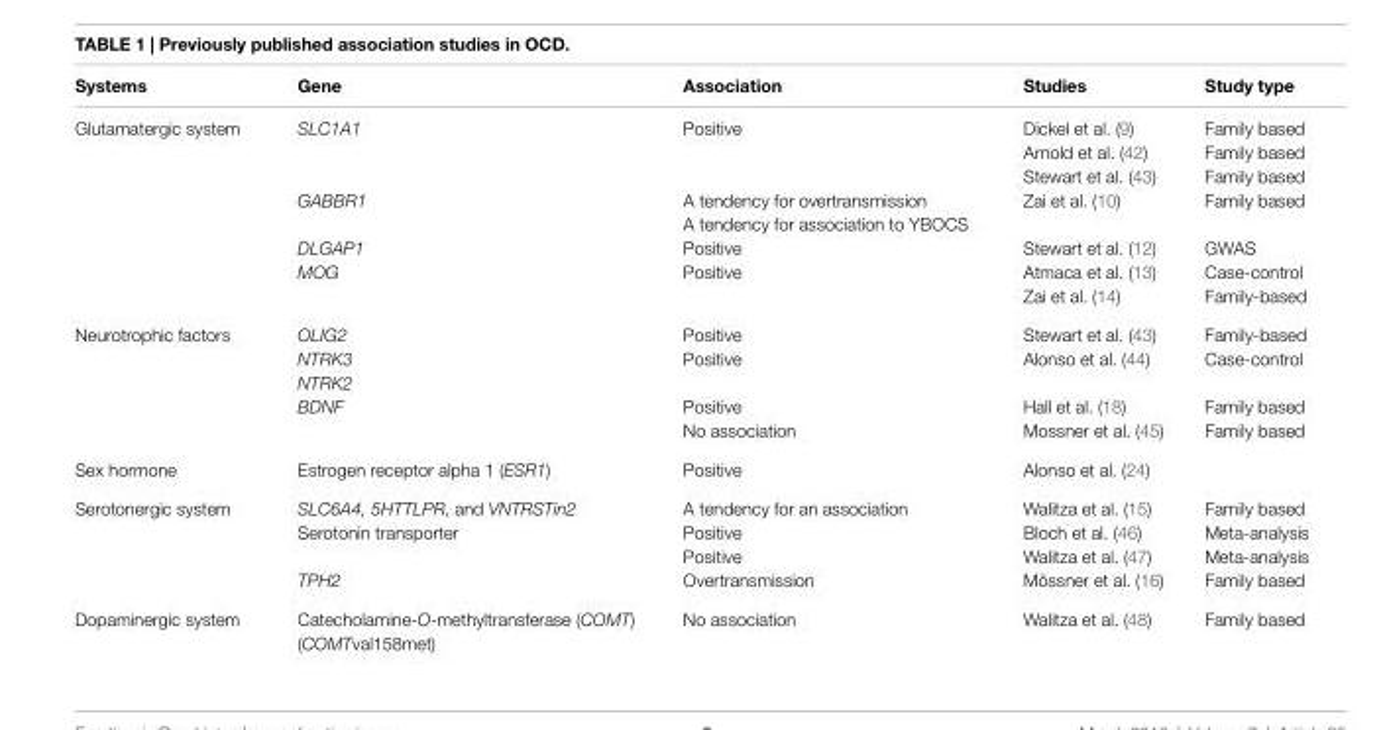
<table><thead><tr><td>systems</td><td>gene</td><td>association</td><td>studies</td><td>study type</td></tr></thead><tbody><tr><td rowspan="8">Glutamatergic system</td><td rowspan="3">SLC1A1</td><td rowspan="3">Positive</td><td>Dickel et al. (9)</td><td>Family based</td></tr><tr><td>Arnold et al. (42)</td><td>Family based</td></tr><tr><td>Stewart et al. (43)</td><td>Family based</td></tr><tr><td rowspan="2">GABBR1</td><td>A tendency for overtransmission</td><td rowspan="2">Zai et al. (10)</td><td rowspan="2">Family based</td></tr><tr><td>A tendency for association to YBOCS</td></tr><tr><td>DLGAP1</td><td>Positive</td><td>Stewart et al. (12)</td><td>GWAS</td></tr><tr><td rowspan="2">MOG</td><td rowspan="2">Positive</td><td>Atmaca et al. (13)</td><td>Case-control</td></tr><tr><td>Zai et al. (14)</td><td>Family-based</td></tr><tr><td rowspan="5">Neurotrophic factors</td><td>OLIG2</td><td>Positive</td><td>Stewart et al. (43)</td><td>Family-based</td></tr><tr><td>NTRK3</td><td rowspan="2">Positive</td><td rowspan="2">Alonso et al. (44)</td><td rowspan="2">Case-control</td></tr><tr><td>NTRK2</td></tr><tr><td rowspan="2">BDNF</td><td>Positive</td><td>Hall et al. (18)</td><td>Family based</td></tr><tr><td>No association</td><td>Mossner et al. (45)</td><td>Family based</td></tr><tr><td>Sex hormone</td><td>Estrogen receptor alpha 1 (ESR1)</td><td>Positive</td><td>Alonso et al. (24)</td><td></td></tr><tr><td rowspan="4">Serotonergic system</td><td>SLC6A4, 5HTTLPR, and VNTRSTin2</td><td rowspan="2">A tendency for an association Positive</td><td>Walitza et al. (15)</td><td>Family based</td></tr><tr><td rowspan="2">Serotonin transporter</td><td>Bloch et al. (46)</td><td>Meta-analysis</td></tr><tr><td>Positive</td><td>Walitza et al. (47)</td><td>Meta-analysis</td></tr><tr><td>TPH2</td><td>Overtransmission</td><td>Mössner et al. (16)</td><td>Family based</td></tr><tr><td>Dopaminergic system</td><td>Catecholamine-O-methyltransferase (COMT) (COMTval158met)</td><td>No association</td><td>Walitza et al. (48)</td><td>Family based</td></tr></tbody></table>